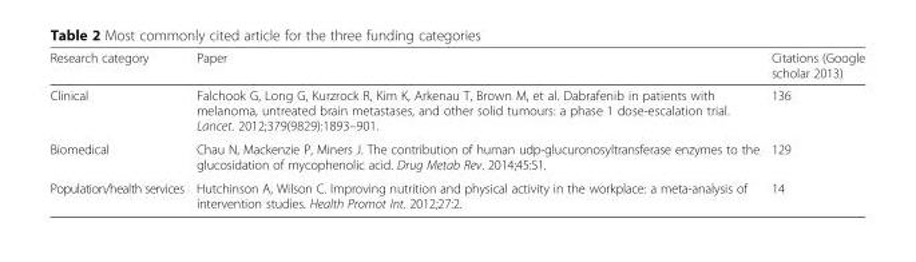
<table><thead><tr><td>Research category</td><td>Paper</td><td>Citations (Google scholar 2013)</td></tr></thead><tbody><tr><td>Clinical</td><td>Falchook G, Long G, Kurzrock R, Kim K, Arkenau T, Brown M, et al. Dabrafenib in patients with melanoma, untreated brain metastases, and other solid tumours: a phase 1 dose-escalation trial. Lancet. 2012;379(9829):1893–901.</td><td>136</td></tr><tr><td>Biomedical</td><td>Chau N, Mackenzie P, Miners J. The contribution of human udp-glucuronosyltransferase enzymes to the glucosidation of mycophenolic acid. Drug Metab Rev. 2014;45:S1.</td><td>129</td></tr><tr><td>Population/health services</td><td>Hutchinson A, Wilson C. Improving nutrition and physical activity in the workplace: a meta-analysis of intervention studies. Health Promot Int. 2012;27:2.</td><td>14</td></tr></tbody></table>